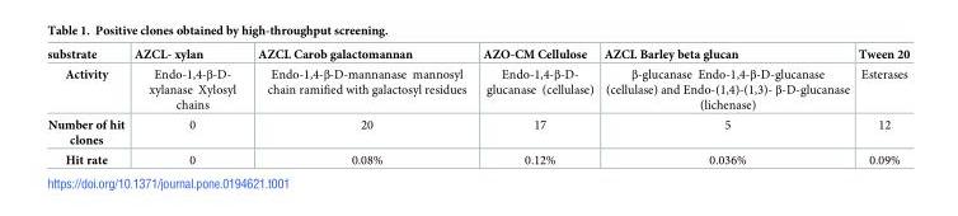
<table><thead><tr><td>substrate</td><td>AZCL- xylan</td><td>AZCL Carob galactomannan</td><td>AZO-CM Cellulose</td><td>AZCL Barley beta glucan</td><td>Tween 20</td></tr></thead><tbody><tr><td>Activity</td><td>Endo-1,4-β-D- xylanase Xylosyl chains</td><td>Endo-1,4-β-D-mannanase mannosyl chain ramified with galactosyl residues</td><td>Endo-1,4-β-D- glucanase (cellulase)</td><td>β-glucanase Endo-1,4-β-D-glucanase (cellulase) and Endo-(1,4)-(1,3)- β-D-glucanase (lichenase)</td><td>Esterases</td></tr><tr><td>Number of hit clones</td><td>0</td><td>20</td><td>17</td><td>5</td><td>12</td></tr><tr><td>Hit rate</td><td>0</td><td>0.08%</td><td>0.12%</td><td>0.036%</td><td>0.09%</td></tr></tbody></table>